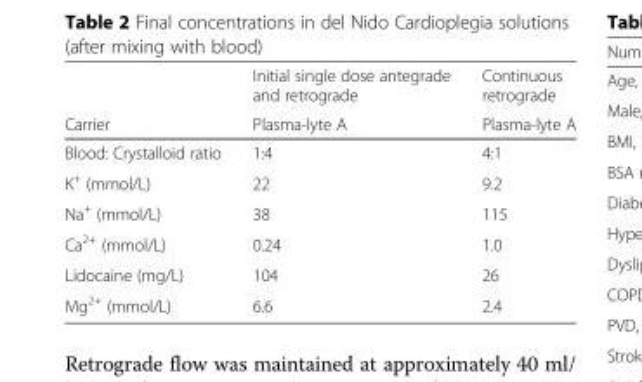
<table><thead><tr><td rowspan="2">Carrier</td><td rowspan="2">Initial single dose antegrade and retrograde Plasma-lyte A</td><td rowspan="2">Continuous retrograde Plasma-lyte A</td></tr><tr></tr></thead><tbody><tr><td>Blood: Crystalloid ratio</td><td>1:4</td><td>4:1</td></tr><tr><td>K<sup>+</sup> (mmol/L)</td><td>22</td><td>9.2</td></tr><tr><td>Na<sup>+</sup> (mmol/L)</td><td>38</td><td>115</td></tr><tr><td>Ca<sup>2+</sup> (mmol/L)</td><td>0.24</td><td>1.0</td></tr><tr><td>Lidocaine (mg/L)</td><td>104</td><td>26</td></tr><tr><td>Mg<sup>2+</sup> (mmol/L)</td><td>6.6</td><td>2.4</td></tr></tbody></table>